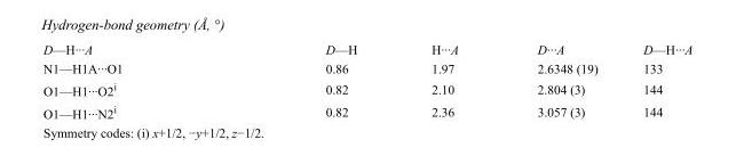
<table><tbody><tr><td>D—H···A</td><td>D—H</td><td>H···A</td><td>D···A</td><td>D—H···A</td></tr><tr><td>N1—H1A···O1</td><td>0.86</td><td>1.97</td><td>2.6348 (19)</td><td>133</td></tr><tr><td>O1—H1···O2<sup>i</sup></td><td>0.82</td><td>2.10</td><td>2.804 (3)</td><td>144</td></tr><tr><td>O1—H1···N2<sup>i</sup></td><td>0.82</td><td>2.36</td><td>3.057 (3)</td><td>144</td></tr></tbody></table>